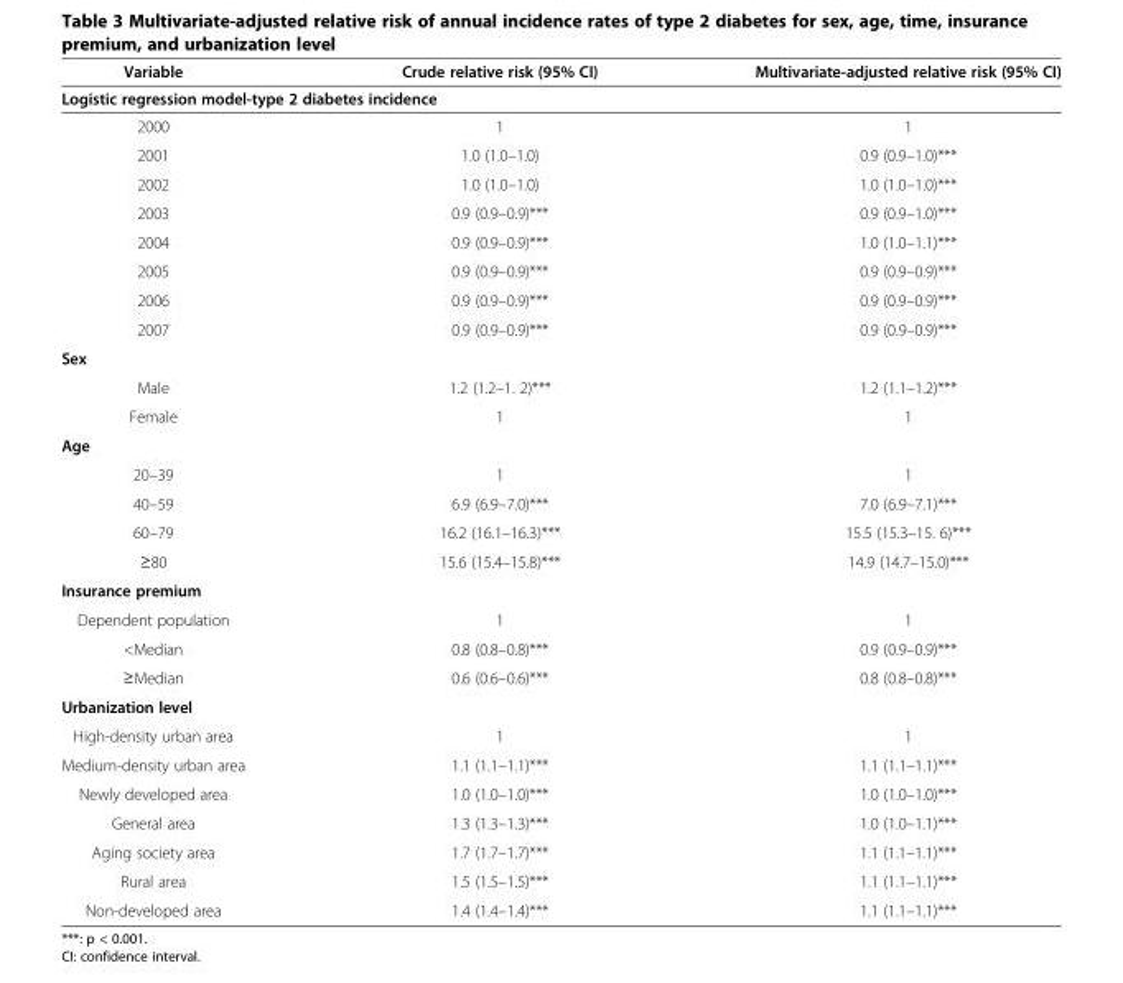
<table><thead><tr><td>Variable</td><td>Crude relative risk (95% CI)</td><td>Multivariate-adjusted relative risk (95% CI)</td></tr></thead><tbody><tr><td colspan="3">Logistic regression model-type 2 diabetes incidence</td></tr><tr><td>2000</td><td>1</td><td>1</td></tr><tr><td>2001</td><td>1.0 (1.0–1.0)</td><td>0.9 (0.9–1.0)***</td></tr><tr><td>2002</td><td>1.0 (1.0–1.0)</td><td>1.0 (1.0–1.0)***</td></tr><tr><td>2003</td><td>0.9 (0.9–0.9)***</td><td>0.9 (0.9–1.0)***</td></tr><tr><td>2004</td><td>0.9 (0.9–0.9)***</td><td>1.0 (1.0–1.1)***</td></tr><tr><td>2005</td><td>0.9 (0.9–0.9)***</td><td>0.9 (0.9–0.9)***</td></tr><tr><td>2006</td><td>0.9 (0.9–0.9)***</td><td>0.9 (0.9–0.9)***</td></tr><tr><td>2007</td><td>0.9 (0.9–0.9)***</td><td>0.9 (0.9–0.9)***</td></tr><tr><td colspan="3">Sex</td></tr><tr><td>Male</td><td>1.2 (1.2–1. 2)***</td><td>1.2 (1.1–1.2)***</td></tr><tr><td>Female</td><td>1</td><td>1</td></tr><tr><td colspan="3">Age</td></tr><tr><td>20–39</td><td>1</td><td>1</td></tr><tr><td>40–59</td><td>6.9 (6.9–7.0)***</td><td>7.0 (6.9–7.1)***</td></tr><tr><td>60–79</td><td>16.2 (16.1–16.3)***</td><td>15.5 (15.3–15. 6)***</td></tr><tr><td>≥80</td><td>15.6 (15.4–15.8)***</td><td>14.9 (14.7–15.0)***</td></tr><tr><td colspan="3">Insurance premium</td></tr><tr><td>Dependent population</td><td>1</td><td>1</td></tr><tr><td>&lt;Median</td><td>0.8 (0.8–0.8)***</td><td>0.9 (0.9–0.9)***</td></tr><tr><td>≥Median</td><td>0.6 (0.6–0.6)***</td><td>0.8 (0.8–0.8)***</td></tr><tr><td colspan="3">Urbanization level</td></tr><tr><td>High-density urban area</td><td>1</td><td>1</td></tr><tr><td>Medium-density urban area</td><td>1.1 (1.1–1.1)***</td><td>1.1 (1.1–1.1)***</td></tr><tr><td>Newly developed area</td><td>1.0 (1.0–1.0)***</td><td>1.0 (1.0–1.0)***</td></tr><tr><td>General area</td><td>1.3 (1.3–1.3)***</td><td>1.0 (1.0–1.1)***</td></tr><tr><td>Aging society area</td><td>1.7 (1.7–1.7)***</td><td>1.1 (1.1–1.1)***</td></tr><tr><td>Rural area</td><td>1.5 (1.5–1.5)***</td><td>1.1 (1.1–1.1)***</td></tr><tr><td>Non-developed area</td><td>1.4 (1.4–1.4)***</td><td>1.1 (1.1–1.1)***</td></tr></tbody></table>